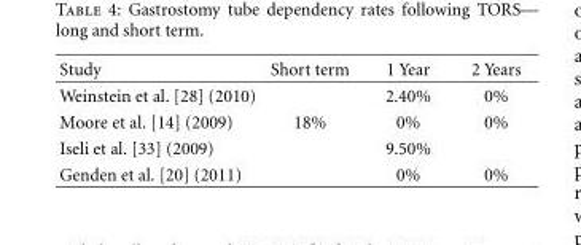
<table><thead><tr><td>Study</td><td>Short term</td><td>1 Year</td><td>2 Years</td></tr></thead><tbody><tr><td>Weinstein et al. [28] (2010)</td><td></td><td>2.40%</td><td>0%</td></tr><tr><td>Moore et al. [14] (2009)</td><td>18%</td><td>0%</td><td>0%</td></tr><tr><td>Iseli et al. [33] (2009)</td><td></td><td>9.50%</td><td></td></tr><tr><td>Genden et al. [20] (2011)</td><td></td><td>0%</td><td>0%</td></tr></tbody></table>